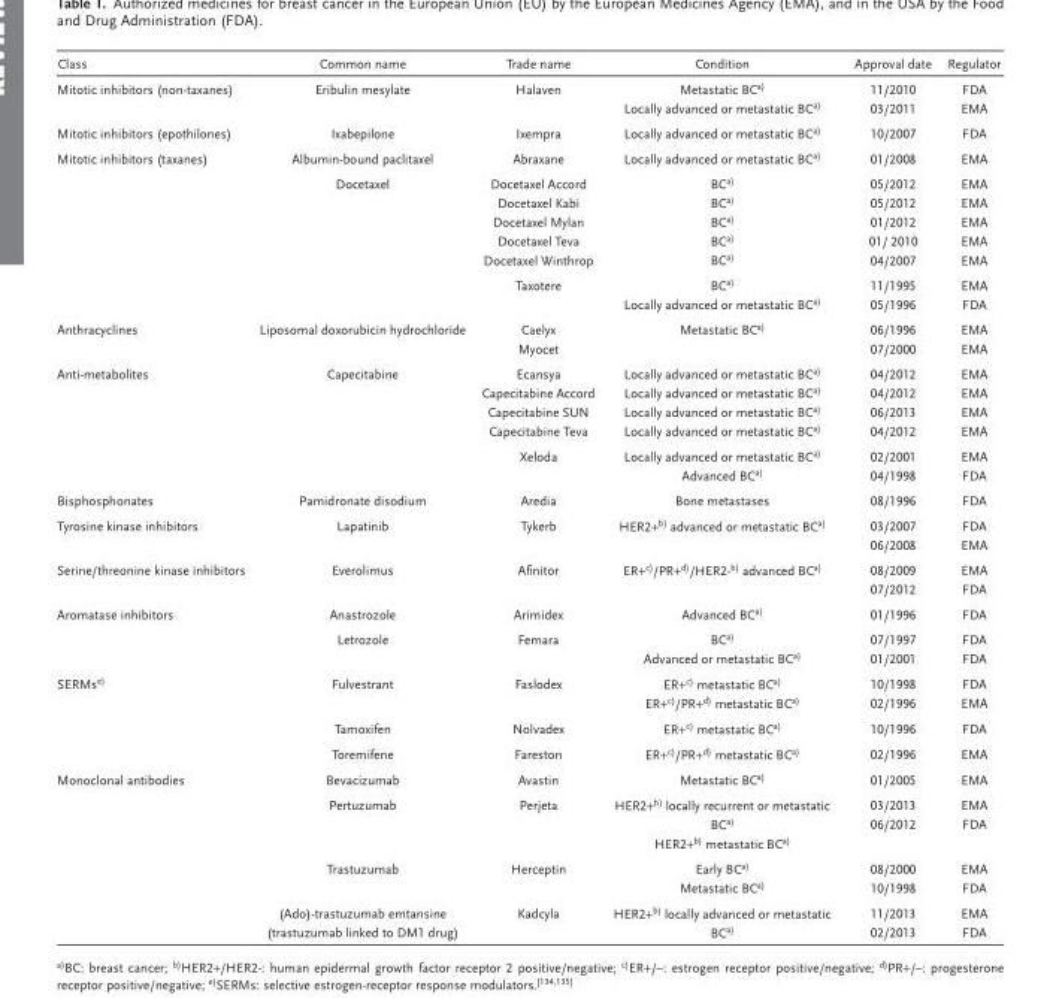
<table><thead><tr><td>Class</td><td>Common name</td><td>Trade name</td><td>Condition</td><td>Approval date</td><td>Regulator</td></tr></thead><tbody><tr><td>Mitotic inhibitors (non-taxanes)</td><td>Eribulin mesylate</td><td>Halaven</td><td>Metastatic BC a) Locally advanced or metastatic BC a)</td><td>11/2010 03/2011</td><td>FDA EMA</td></tr><tr><td>Mitotic inhibitors (epothilones)</td><td>Ixabepilone</td><td>Ixempra</td><td>Locally advanced or metastatic BC a)</td><td>10/2007</td><td>FDA</td></tr><tr><td rowspan="3">Mitotic inhibitors (taxanes)</td><td>Albumin-bound paclitaxel</td><td>Abraxane</td><td>Locally advanced or metastatic BC a)</td><td>01/2008</td><td>EMA</td></tr><tr><td>Docetaxel</td><td>Docetaxel Accord Docetaxel Kabi Docetaxel Mylan Docetaxel Teva Docetaxel Winthrop</td><td>BC a) BC a) BC a) BC a) BC a)</td><td>05/2012 05/2012 01/2012 01/ 2010 04/2007</td><td>EMA EMA EMA EMA EMA</td></tr><tr><td></td><td>Taxotere</td><td>BC a) Locally advanced or metastatic BC a)</td><td>11/1995 05/1996</td><td>EMA FDA</td></tr><tr><td>Anthracyclines</td><td>Liposomal doxorubicin hydrochloride</td><td>Caelyx Myocet</td><td>Metastatic BC a)</td><td>06/1996 07/2000</td><td>EMA EMA</td></tr><tr><td rowspan="2">Anti-metabolites</td><td>Capecitabine</td><td>Ecansya Capecitabine Accord Capecitabine SUN Capecitabine Teva</td><td>Locally advanced or metastatic BC a) Locally advanced or metastatic BC a) Locally advanced or metastatic BC a) Locally advanced or metastatic BC a)</td><td>04/2012 04/2012 06/2013 04/2012</td><td>EMA EMA EMA EMA</td></tr><tr><td></td><td>Xeloda</td><td>Locally advanced or metastatic BC a) Advanced BC a)</td><td>02/2001 04/1998</td><td>EMA FDA</td></tr><tr><td>Bisphosphonates</td><td>Pamidronate disodium</td><td>Aredia</td><td>Bone metastases</td><td>08/1996</td><td>FDA</td></tr><tr><td>Tyrosine kinase inhibitors</td><td>Lapatinib</td><td>Tykerb</td><td>HER2+ b) advanced or metastatic BC a)</td><td>03/2007 06/2008</td><td>FDA EMA</td></tr><tr><td>Serine/threonine kinase inhibitors</td><td>Everolimus</td><td>Afi nitor</td><td>ER+ c) /PR+ d) /HER2- b) advanced BC a)</td><td>08/2009 07/2012</td><td>EMA FDA</td></tr><tr><td rowspan="2">Aromatase inhibitors</td><td>Anastrozole</td><td>Arimidex</td><td>Advanced BC a)</td><td>01/1996</td><td>FDA</td></tr><tr><td>Letrozole</td><td>Femara</td><td>BC a) Advanced or metastatic BC a)</td><td>07/1997 01/2001</td><td>FDA FDA</td></tr><tr><td rowspan="3">SERMs e)</td><td>Fulvestrant</td><td>Faslodex</td><td>ER+ c) metastatic BC a) ER+ c) /PR+ d) metastatic BC a)</td><td>10/1998 02/1996</td><td>FDA EMA</td></tr><tr><td>Tamoxifen</td><td>Nolvadex</td><td>ER+ c) metastatic BC a)</td><td>10/1996</td><td>FDA</td></tr><tr><td>Toremifene</td><td>Fareston</td><td>ER+ c) /PR+ d) metastatic BC a)</td><td>02/1996</td><td>EMA</td></tr><tr><td rowspan="4">Monoclonal antibodies</td><td>Bevacizumab</td><td>Avastin</td><td>Metastatic BC a)</td><td>01/2005</td><td>EMA</td></tr><tr><td>Pertuzumab</td><td>Perjeta</td><td>HER2+ b) locally recurrent or metastatic BC a) HER2+ b) metastatic BC a)</td><td>03/2013 06/2012</td><td>EMA FDA</td></tr><tr><td>Trastuzumab</td><td>Herceptin</td><td>Early BC a) Metastatic BC a)</td><td>08/2000 10/1998</td><td>EMA FDA</td></tr><tr><td>(Ado)-trastuzumab emtansine (trastuzumab linked to DM1 drug)</td><td>Kadcyla</td><td>HER2+ b) locally advanced or metastatic BC a)</td><td>11/2013 02/2013</td><td>EMA FDA</td></tr></tbody></table>